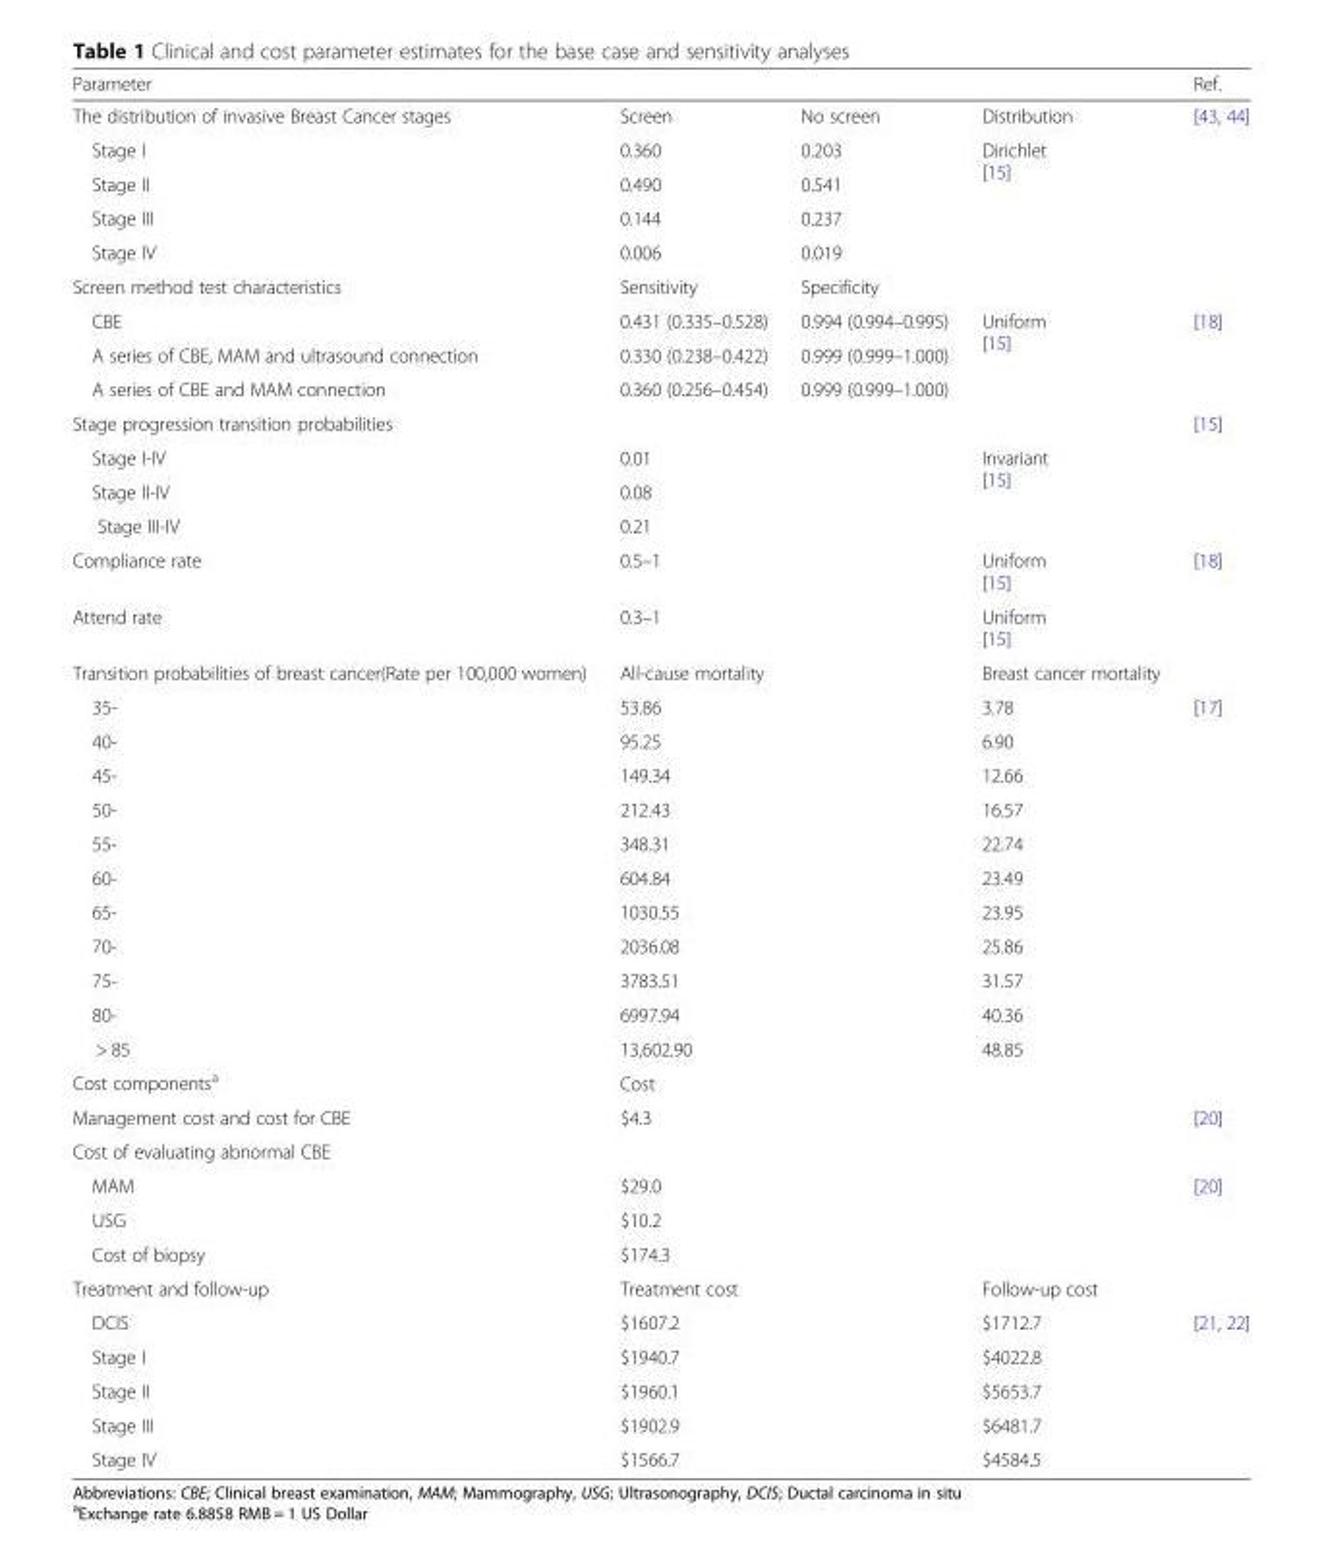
<table><thead><tr><td>Parameter</td><td></td><td></td><td></td><td>Ref.</td></tr></thead><tbody><tr><td>The distribution of invasive Breast Cancer stages</td><td>Screen</td><td>No screen</td><td>Distribution</td><td rowspan="5">[43, 44]</td></tr><tr><td>Stage I</td><td>0.360</td><td>0.203</td><td rowspan="4">Dirichlet [15]</td></tr><tr><td>Stage II</td><td>0.490</td><td>0.541</td></tr><tr><td>Stage III</td><td>0.144</td><td>0.237</td></tr><tr><td>Stage IV</td><td>0.006</td><td>0.019</td></tr><tr><td>Screen method test characteristics</td><td>Sensitivity</td><td>Specificity</td><td></td><td></td></tr><tr><td>CBE</td><td>0.431 (0.335–0.528)</td><td>0.994 (0.994–0.995)</td><td rowspan="3">Uniform [15]</td><td rowspan="3">[18]</td></tr><tr><td>A series of CBE, MAM and ultrasound connection</td><td>0.330 (0.238–0.422)</td><td>0.999 (0.999–1.000)</td></tr><tr><td>A series of CBE and MAM connection</td><td>0.360 (0.256–0.454)</td><td>0.999 (0.999–1.000)</td></tr><tr><td colspan="4">Stage progression transition probabilities</td><td rowspan="4">[15]</td></tr><tr><td>Stage I-IV</td><td colspan="2">0.01</td><td rowspan="3">Invariant [15]</td></tr><tr><td>Stage II-IV</td><td colspan="2">0.08</td></tr><tr><td>Stage III-IV</td><td colspan="2">0.21</td></tr><tr><td>Compliance rate</td><td colspan="2">0.5–1</td><td>Uniform [15]</td><td rowspan="2">[18]</td></tr><tr><td>Attend rate</td><td colspan="2">0.3–1</td><td>Uniform [15]</td></tr><tr><td>Transition probabilities of breast cancer(Rate per 100,000 women)</td><td colspan="2">All-cause mortality</td><td>Breast cancer mortality</td><td></td></tr><tr><td>35-</td><td colspan="2">53.86</td><td>3.78</td><td rowspan="11">[17]</td></tr><tr><td>40-</td><td colspan="2">95.25</td><td>6.90</td></tr><tr><td>45-</td><td colspan="2">149.34</td><td>12.66</td></tr><tr><td>50-</td><td colspan="2">212.43</td><td>16.57</td></tr><tr><td>55-</td><td colspan="2">348.31</td><td>22.74</td></tr><tr><td>60-</td><td colspan="2">604.84</td><td>23.49</td></tr><tr><td>65-</td><td colspan="2">1030.55</td><td>23.95</td></tr><tr><td>70-</td><td colspan="2">2036.08</td><td>25.86</td></tr><tr><td>75-</td><td colspan="2">3783.51</td><td>31.57</td></tr><tr><td>80-</td><td colspan="2">6997.94</td><td>40.36</td></tr><tr><td>&gt; 85</td><td colspan="2">13,602.90</td><td>48.85</td></tr><tr><td>Cost components<sup>a</sup></td><td colspan="2">Cost</td><td></td><td></td></tr><tr><td>Management cost and cost for CBE</td><td colspan="2">$4.3</td><td></td><td>[20]</td></tr><tr><td colspan="5">Cost of evaluating abnormal CBE</td></tr><tr><td>MAM</td><td colspan="2">$29.0</td><td></td><td>[20]</td></tr><tr><td>USG</td><td colspan="2">$10.2</td><td></td><td></td></tr><tr><td>Cost of biopsy</td><td colspan="2">$174.3</td><td></td><td></td></tr><tr><td>Treatment and follow-up</td><td colspan="2">Treatment cost</td><td>Follow-up cost</td><td></td></tr><tr><td>DCIS</td><td colspan="2">$1607.2</td><td>$1712.7</td><td rowspan="5">[21, 22]</td></tr><tr><td>Stage I</td><td colspan="2">$1940.7</td><td>$4022.8</td></tr><tr><td>Stage II</td><td colspan="2">$1960.1</td><td>$5653.7</td></tr><tr><td>Stage III</td><td colspan="2">$1902.9</td><td>$6481.7</td></tr><tr><td>Stage IV</td><td colspan="2">$1566.7</td><td>$4584.5</td></tr></tbody></table>